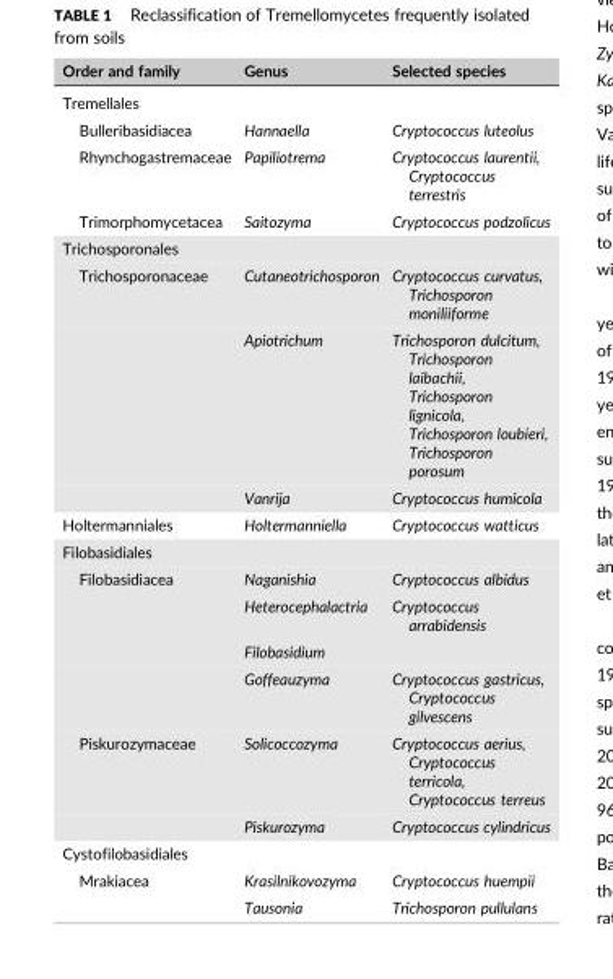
<table><thead><tr><td>Order and family</td><td>Genus</td><td>Selected species</td></tr></thead><tbody><tr><td colspan="3">Tremellales</td></tr><tr><td>Bulleribasidiacea</td><td>Hannaella</td><td>Cryptococcus luteolus</td></tr><tr><td>Rhynchogastremaceae</td><td>Papiliotrema</td><td>Cryptococcus laurentii, Cryptococcus terrestris</td></tr><tr><td>Trimorphomycetacea</td><td>Saitozyma</td><td>Cryptococcus podzolicus</td></tr><tr><td colspan="3">Trichosporonales</td></tr><tr><td rowspan="3">Trichosporonaceae</td><td>Cutaneotrichosporon</td><td>Cryptococcus curvatus, Trichosporon moniliiforme</td></tr><tr><td>Apiotrichum</td><td>Trichosporon dulcitum, Trichosporon laibachii, Trichosporon lignicola, Trichosporon loubieri, Trichosporon porosum</td></tr><tr><td>Vanrija</td><td>Cryptococcus humicola</td></tr><tr><td>Holtermanniales</td><td>Holtermanniella</td><td>Cryptococcus watticus</td></tr><tr><td colspan="3">Filobasidiales</td></tr><tr><td rowspan="4">Filobasidiacea</td><td>Naganishia</td><td>Cryptococcus albidus</td></tr><tr><td>Heterocephalactria</td><td>Cryptococcus arrabidensis</td></tr><tr><td>Filobasidium</td><td></td></tr><tr><td>Goffeauzyma</td><td>Cryptococcus gastricus, Cryptococcus gilvescens</td></tr><tr><td rowspan="2">Piskurozymaceae</td><td>Solicoccozyma</td><td>Cryptococcus aerius, Cryptococcus terricola, Cryptococcus terreus</td></tr><tr><td>Piskurozyma</td><td>Cryptococcus cylindricus</td></tr><tr><td colspan="3">Cystofilobasidiales</td></tr><tr><td rowspan="2">Mrakiacea</td><td>Krasilnikovozyma</td><td>Cryptococcus huempii</td></tr><tr><td>Tausonia</td><td>Trichosporon pullulans</td></tr></tbody></table>